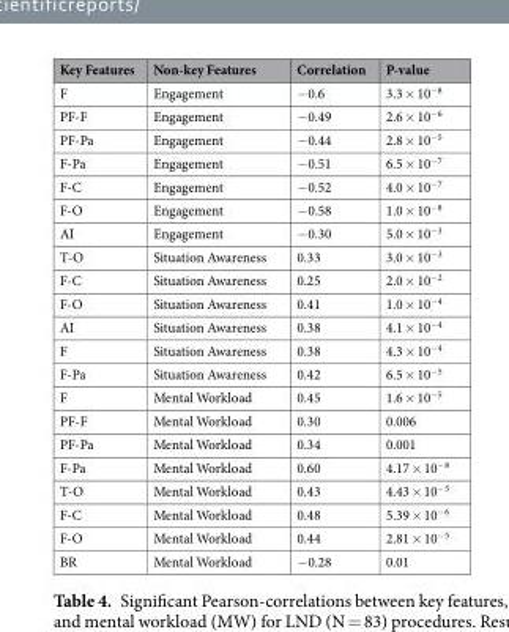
<table><thead><tr><td>Key Features</td><td>Non-key Features</td><td>Correlation</td><td>P-value</td></tr></thead><tbody><tr><td>F</td><td>Engagement</td><td>−0.6</td><td>3.3 × 10<sup>−8</sup></td></tr><tr><td>PF-F</td><td>Engagement</td><td>−0.49</td><td>2.6 × 10<sup>−6</sup></td></tr><tr><td>PF-Pa</td><td>Engagement</td><td>−0.44</td><td>2.8 × 10<sup>−5</sup></td></tr><tr><td>F-Pa</td><td>Engagement</td><td>−0.51</td><td>6.5 × 10<sup>−7</sup></td></tr><tr><td>F-C</td><td>Engagement</td><td>−0.52</td><td>4.0 × 10<sup>−7</sup></td></tr><tr><td>F-O</td><td>Engagement</td><td>−0.58</td><td>1.0 × 10<sup>−8</sup></td></tr><tr><td>AI</td><td>Engagement</td><td>−0.30</td><td>5.0 × 10<sup>−3</sup></td></tr><tr><td>T-O</td><td>Situation Awareness</td><td>0.33</td><td>3.0 × 10<sup>−3</sup></td></tr><tr><td>F-C</td><td>Situation Awareness</td><td>0.25</td><td>2.0 × 10<sup>−2</sup></td></tr><tr><td>F-O</td><td>Situation Awareness</td><td>0.41</td><td>1.0 × 10<sup>−4</sup></td></tr><tr><td>AI</td><td>Situation Awareness</td><td>0.38</td><td>4.1 × 10<sup>−4</sup></td></tr><tr><td>F</td><td>Situation Awareness</td><td>0.38</td><td>4.3 × 10<sup>−4</sup></td></tr><tr><td>F-Pa</td><td>Situation Awareness</td><td>0.42</td><td>6.5 × 10<sup>−5</sup></td></tr><tr><td>F</td><td>Mental Workload</td><td>0.45</td><td>1.6 × 10<sup>−5</sup></td></tr><tr><td>PF-F</td><td>Mental Workload</td><td>0.30</td><td>0.006</td></tr><tr><td>PF-Pa</td><td>Mental Workload</td><td>0.34</td><td>0.001</td></tr><tr><td>F-Pa</td><td>Mental Workload</td><td>0.60</td><td>4.17 × 10<sup>−8</sup></td></tr><tr><td>T-O</td><td>Mental Workload</td><td>0.43</td><td>4.43 × 10<sup>−5</sup></td></tr><tr><td>F-C</td><td>Mental Workload</td><td>0.48</td><td>5.39 × 10<sup>−6</sup></td></tr><tr><td>F-O</td><td>Mental Workload</td><td>0.44</td><td>2.81 × 10<sup>−5</sup></td></tr><tr><td>BR</td><td>Mental Workload</td><td>−0.28</td><td>0.01</td></tr></tbody></table>